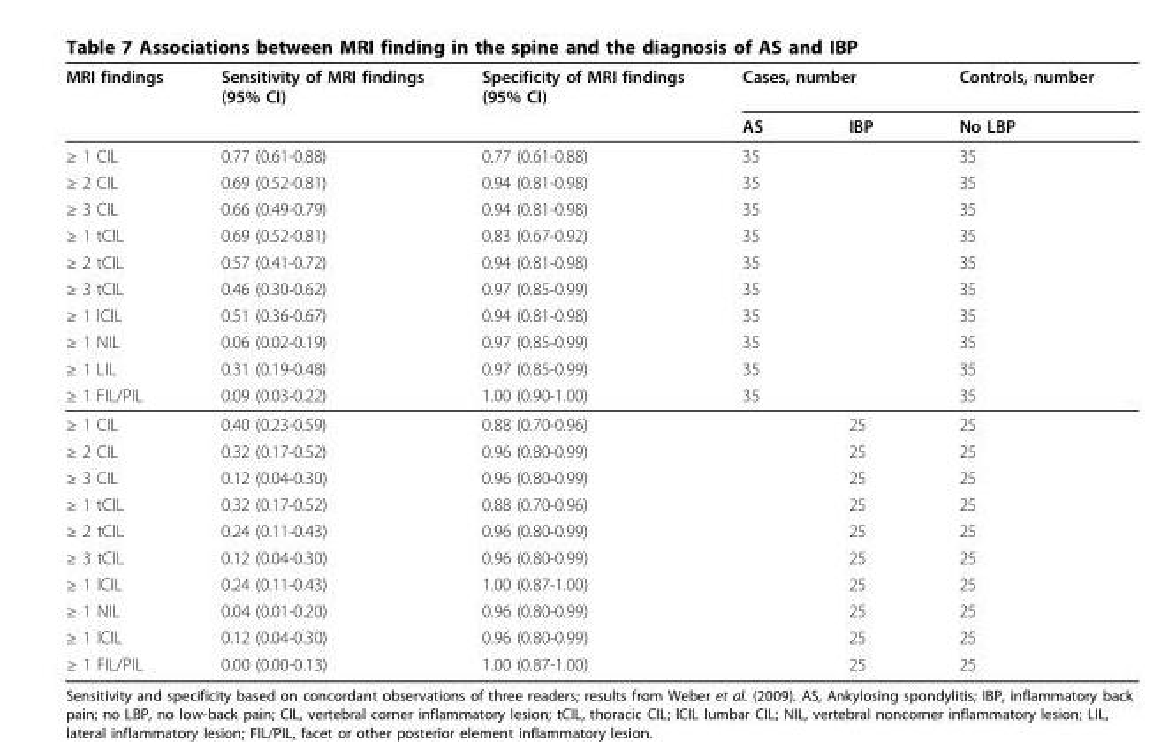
<table><thead><tr><td rowspan="2">MRI findings</td><td rowspan="2">Sensitivity of MRI findings (95% CI)</td><td rowspan="2">Specificity of MRI findings (95% CI)</td><td colspan="2">Cases, number</td><td rowspan="2">Controls, number No LBP</td></tr><tr><td>AS</td><td>IBP</td></tr></thead><tbody><tr><td>≥ 1 CIL</td><td>0.77 (0.61-0.88)</td><td>0.77 (0.61-0.88)</td><td>35</td><td></td><td>35</td></tr><tr><td>≥ 2 CIL</td><td>0.69 (0.52-0.81)</td><td>0.94 (0.81-0.98)</td><td>35</td><td></td><td>35</td></tr><tr><td>≥ 3 CIL</td><td>0.66 (0.49-0.79)</td><td>0.94 (0.81-0.98)</td><td>35</td><td></td><td>35</td></tr><tr><td>≥ 1 tCIL</td><td>0.69 (0.52-0.81)</td><td>0.83 (0.67-0.92)</td><td>35</td><td></td><td>35</td></tr><tr><td>≥ 2 tCIL</td><td>0.57 (0.41-0.72)</td><td>0.94 (0.81-0.98)</td><td>35</td><td></td><td>35</td></tr><tr><td>≥ 3 tCIL</td><td>0.46 (0.30-0.62)</td><td>0.97 (0.85-0.99)</td><td>35</td><td></td><td>35</td></tr><tr><td>≥ 1 lCIL</td><td>0.51 (0.36-0.67)</td><td>0.94 (0.81-0.98)</td><td>35</td><td></td><td>35</td></tr><tr><td>≥ 1 NIL</td><td>0.06 (0.02-0.19)</td><td>0.97 (0.85-0.99)</td><td>35</td><td></td><td>35</td></tr><tr><td>≥ 1 LIL</td><td>0.31 (0.19-0.48)</td><td>0.97 (0.85-0.99)</td><td>35</td><td></td><td>35</td></tr><tr><td>≥ 1 FIL/PIL</td><td>0.09 (0.03-0.22)</td><td>1.00 (0.90-1.00)</td><td>35</td><td></td><td>35</td></tr><tr><td>≥ 1 CIL</td><td>0.40 (0.23-0.59)</td><td>0.88 (0.70-0.96)</td><td></td><td>25</td><td>25</td></tr><tr><td>≥ 2 CIL</td><td>0.32 (0.17-0.52)</td><td>0.96 (0.80-0.99)</td><td></td><td>25</td><td>25</td></tr><tr><td>≥ 3 CIL</td><td>0.12 (0.04-0.30)</td><td>0.96 (0.80-0.99)</td><td></td><td>25</td><td>25</td></tr><tr><td>≥ 1 tCIL</td><td>0.32 (0.17-0.52)</td><td>0.88 (0.70-0.96)</td><td></td><td>25</td><td>25</td></tr><tr><td>≥ 2 tCIL</td><td>0.24 (0.11-0.43)</td><td>0.96 (0.80-0.99)</td><td></td><td>25</td><td>25</td></tr><tr><td>≥ 3 tCIL</td><td>0.12 (0.04-0.30)</td><td>0.96 (0.80-0.99)</td><td></td><td>25</td><td>25</td></tr><tr><td>≥ 1 lCIL</td><td>0.24 (0.11-0.43)</td><td>1.00 (0.87-1.00)</td><td></td><td>25</td><td>25</td></tr><tr><td>≥ 1 NIL</td><td>0.04 (0.01-0.20)</td><td>0.96 (0.80-0.99)</td><td></td><td>25</td><td>25</td></tr><tr><td>≥ 1 lCIL</td><td>0.12 (0.04-0.30)</td><td>0.96 (0.80-0.99)</td><td></td><td>25</td><td>25</td></tr><tr><td>≥ 1 FIL/PIL</td><td>0.00 (0.00-0.13)</td><td>1.00 (0.87-1.00)</td><td></td><td>25</td><td>25</td></tr></tbody></table>